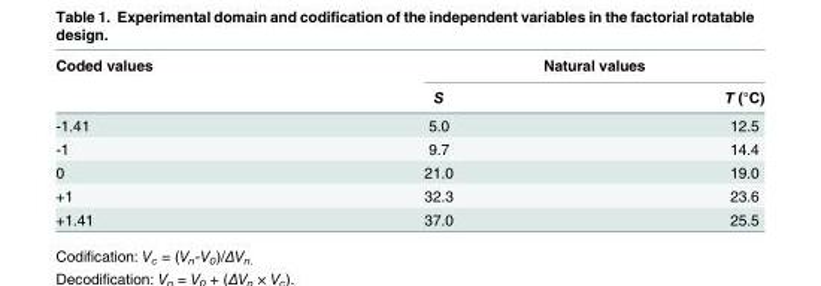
<table><thead><tr><td rowspan="2">Coded values</td><td colspan="2">Natural values</td></tr><tr><td>S</td><td>T (°C)</td></tr></thead><tbody><tr><td>-1.41</td><td>5.0</td><td>12.5</td></tr><tr><td>-1</td><td>9.7</td><td>14.4</td></tr><tr><td>0</td><td>21.0</td><td>19.0</td></tr><tr><td>+1</td><td>32.3</td><td>23.6</td></tr><tr><td>+1.41</td><td>37.0</td><td>25.5</td></tr></tbody></table>